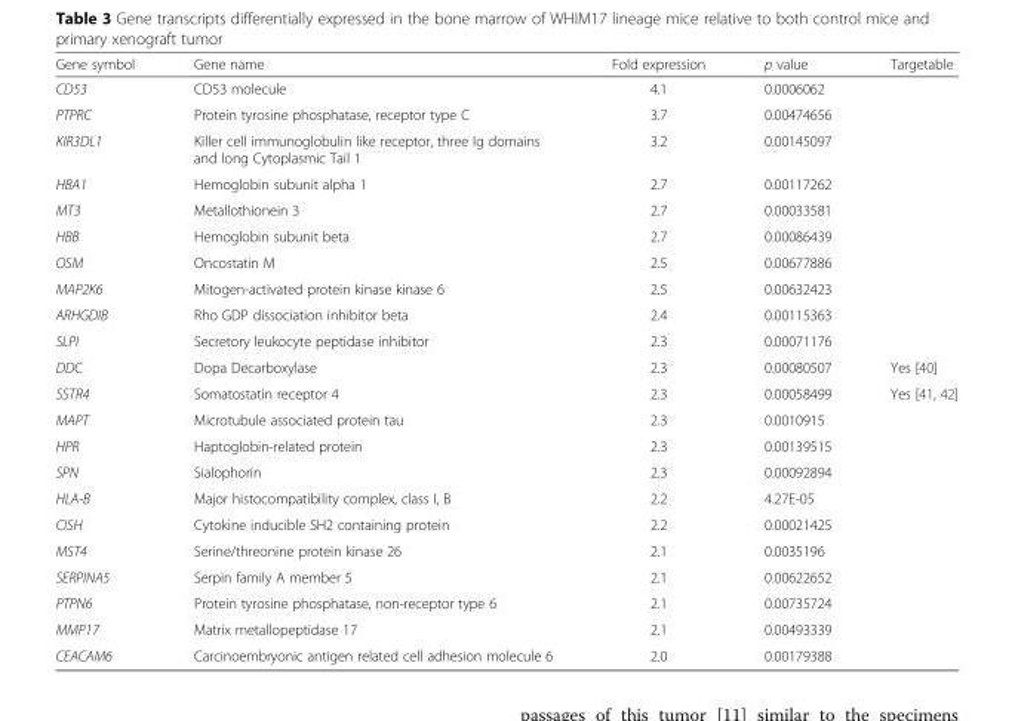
<table><thead><tr><td>Gene symbol</td><td>Gene name</td><td>Fold expression</td><td>p value</td><td>Targetable</td></tr></thead><tbody><tr><td>CD53</td><td>CD53 molecule</td><td>4.1</td><td>0.0006062</td><td></td></tr><tr><td>PTPRC</td><td>Protein tyrosine phosphatase, receptor type C</td><td>3.7</td><td>0.00474656</td><td></td></tr><tr><td>KIR3DL1</td><td>Killer cell immunoglobulin like receptor, three Ig domains and long Cytoplasmic Tail 1</td><td>3.2</td><td>0.00145097</td><td></td></tr><tr><td>HBA1</td><td>Hemoglobin subunit alpha 1</td><td>2.7</td><td>0.00117262</td><td></td></tr><tr><td>MT3</td><td>Metallothionein 3</td><td>2.7</td><td>0.00033581</td><td></td></tr><tr><td>HBB</td><td>Hemoglobin subunit beta</td><td>2.7</td><td>0.00086439</td><td></td></tr><tr><td>OSM</td><td>Oncostatin M</td><td>2.5</td><td>0.00677886</td><td></td></tr><tr><td>MAP2K6</td><td>Mitogen-activated protein kinase kinase 6</td><td>2.5</td><td>0.00632423</td><td></td></tr><tr><td>ARHGDIB</td><td>Rho GDP dissociation inhibitor beta</td><td>2.4</td><td>0.00115363</td><td></td></tr><tr><td>SLPI</td><td>Secretory leukocyte peptidase inhibitor</td><td>2.3</td><td>0.00071176</td><td></td></tr><tr><td>DDC</td><td>Dopa Decarboxylase</td><td>2.3</td><td>0.00080507</td><td>Yes [40]</td></tr><tr><td>SSTR4</td><td>Somatostatin receptor 4</td><td>2.3</td><td>0.00058499</td><td>Yes [41, 42]</td></tr><tr><td>MAPT</td><td>Microtubule associated protein tau</td><td>2.3</td><td>0.0010915</td><td></td></tr><tr><td>HPR</td><td>Haptoglobin-related protein</td><td>2.3</td><td>0.00139515</td><td></td></tr><tr><td>SPN</td><td>Sialophorin</td><td>2.3</td><td>0.00092894</td><td></td></tr><tr><td>HLA-B</td><td>Major histocompatibility complex, class I, B</td><td>2.2</td><td>4.27E-05</td><td></td></tr><tr><td>CISH</td><td>Cytokine inducible SH2 containing protein</td><td>2.2</td><td>0.00021425</td><td></td></tr><tr><td>MST4</td><td>Serine/threonine protein kinase 26</td><td>2.1</td><td>0.0035196</td><td></td></tr><tr><td>SERPINA5</td><td>Serpin family A member 5</td><td>2.1</td><td>0.00622652</td><td></td></tr><tr><td>PTPN6</td><td>Protein tyrosine phosphatase, non-receptor type 6</td><td>2.1</td><td>0.00735724</td><td></td></tr><tr><td>MMP17</td><td>Matrix metallopeptidase 17</td><td>2.1</td><td>0.00493339</td><td></td></tr><tr><td>CEACAM6</td><td>Carcinoembryonic antigen related cell adhesion molecule 6</td><td>2.0</td><td>0.00179388</td><td></td></tr></tbody></table>